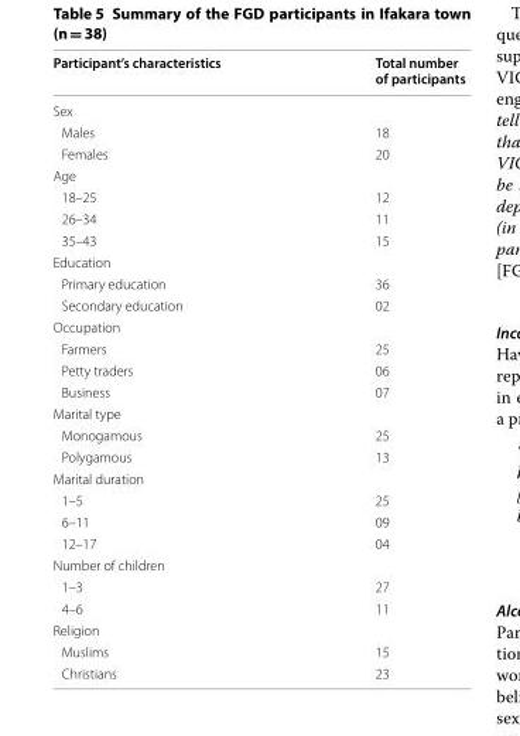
<table><thead><tr><td>Participant’s characteristics</td><td>Total number of participants</td></tr></thead><tbody><tr><td colspan="2">Sex</td></tr><tr><td>Males</td><td>18</td></tr><tr><td>Females</td><td>20</td></tr><tr><td colspan="2">Age</td></tr><tr><td>18–25</td><td>12</td></tr><tr><td>26–34</td><td>11</td></tr><tr><td>35–43</td><td>15</td></tr><tr><td colspan="2">Education</td></tr><tr><td>Primary education</td><td>36</td></tr><tr><td>Secondary education</td><td>02</td></tr><tr><td colspan="2">Occupation</td></tr><tr><td>Farmers</td><td>25</td></tr><tr><td>Petty traders</td><td>06</td></tr><tr><td>Business</td><td>07</td></tr><tr><td colspan="2">Marital type</td></tr><tr><td>Monogamous</td><td>25</td></tr><tr><td>Polygamous</td><td>13</td></tr><tr><td colspan="2">Marital duration</td></tr><tr><td>1–5</td><td>25</td></tr><tr><td>6–11</td><td>09</td></tr><tr><td>12–17</td><td>04</td></tr><tr><td colspan="2">Number of children</td></tr><tr><td>1–3</td><td>27</td></tr><tr><td>4–6</td><td>11</td></tr><tr><td colspan="2">Religion</td></tr><tr><td>Muslims</td><td>15</td></tr><tr><td>Christians</td><td>23</td></tr></tbody></table>